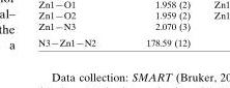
<table><tbody><tr><td>N3—Zn1—N2</td><td>178.59 (12)</td></tr></tbody></table>